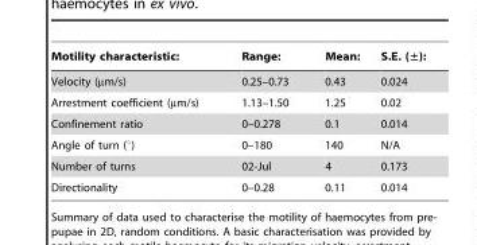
<table><thead><tr><td>Motility characteristic:</td><td>Range:</td><td>Mean:</td><td>S.E. (±):</td></tr></thead><tbody><tr><td>Velocity (µm/s)</td><td>0.25–0.73</td><td>0.43</td><td>0.024</td></tr><tr><td>Arrestment coefficient (µm/s)</td><td>1.13–1.50</td><td>1.25</td><td>0.02</td></tr><tr><td>Confinement ratio</td><td>0–0.278</td><td>0.1</td><td>0.014</td></tr><tr><td>Angle of turn (°)</td><td>0–180</td><td>140</td><td>N/A</td></tr><tr><td>Number of turns</td><td>02-Jul</td><td>4</td><td>0.173</td></tr><tr><td>Directionality</td><td>0–0.28</td><td>0.11</td><td>0.014</td></tr></tbody></table>